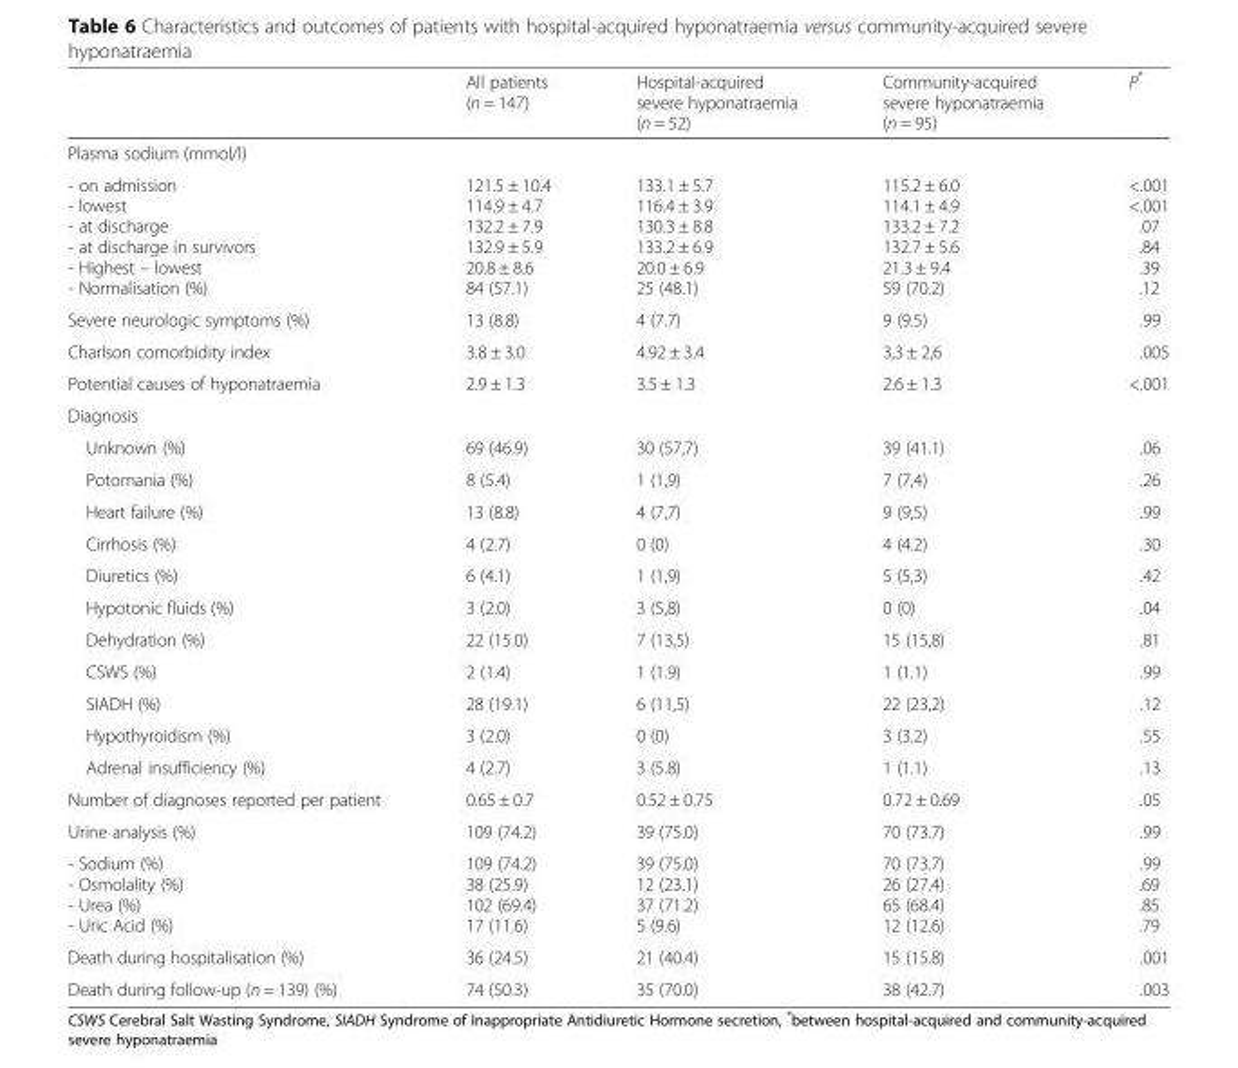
<table><thead><tr><td></td><td>All patients (n = 147)</td><td>Hospital-acquired severe hyponatraemia (n = 52)</td><td>Community-acquired severe hyponatraemia (n = 95)</td><td>P*</td></tr></thead><tbody><tr><td colspan="5">Plasma sodium (mmol/l)</td></tr><tr><td>- on admission - lowest - at discharge - at discharge in survivors - Highest – lowest - Normalisation (%)</td><td>121.5 ± 10.4 114.9 ± 4.7 132.2 ± 7.9 132.9 ± 5.9 20.8 ± 8.6 84 (57.1)</td><td>133.1 ± 5.7 116.4 ± 3.9 130.3 ± 8.8 133.2 ± 6.9 20.0 ± 6.9 25 (48.1)</td><td>115.2 ± 6.0 114.1 ± 4.9 133.2 ± 7.2 132.7 ± 5.6 21.3 ± 9.4 59 (70.2)</td><td>&lt;.001 &lt;.001 .07 .84 .39 .12</td></tr><tr><td>Severe neurologic symptoms (%)</td><td>13 (8.8)</td><td>4 (7.7)</td><td>9 (9.5)</td><td>.99</td></tr><tr><td>Charlson comorbidity index</td><td>3.8 ± 3.0</td><td>4.92 ± 3.4</td><td>3,3 ± 2,6</td><td>.005</td></tr><tr><td>Potential causes of hyponatraemia</td><td>2.9 ± 1.3</td><td>3.5 ± 1.3</td><td>2.6 ± 1.3</td><td>&lt;.001</td></tr><tr><td colspan="5">Diagnosis</td></tr><tr><td>Unknown (%)</td><td>69 (46.9)</td><td>30 (57,7)</td><td>39 (41.1)</td><td>.06</td></tr><tr><td>Potomania (%)</td><td>8 (5.4)</td><td>1 (1,9)</td><td>7 (7,4)</td><td>.26</td></tr><tr><td>Heart failure (%)</td><td>13 (8.8)</td><td>4 (7,7)</td><td>9 (9,5)</td><td>.99</td></tr><tr><td>Cirrhosis (%)</td><td>4 (2.7)</td><td>0 (0)</td><td>4 (4.2)</td><td>.30</td></tr><tr><td>Diuretics (%)</td><td>6 (4.1)</td><td>1 (1,9)</td><td>5 (5,3)</td><td>.42</td></tr><tr><td>Hypotonic fluids (%)</td><td>3 (2.0)</td><td>3 (5,8)</td><td>0 (0)</td><td>.04</td></tr><tr><td>Dehydration (%)</td><td>22 (15.0)</td><td>7 (13,5)</td><td>15 (15,8)</td><td>.81</td></tr><tr><td>CSWS (%)</td><td>2 (1.4)</td><td>1 (1.9)</td><td>1 (1.1)</td><td>.99</td></tr><tr><td>SIADH (%)</td><td>28 (19.1)</td><td>6 (11,5)</td><td>22 (23,2)</td><td>.12</td></tr><tr><td>Hypothyroidism (%)</td><td>3 (2.0)</td><td>0 (0)</td><td>3 (3.2)</td><td>.55</td></tr><tr><td>Adrenal insufficiency (%)</td><td>4 (2.7)</td><td>3 (5.8)</td><td>1 (1.1)</td><td>.13</td></tr><tr><td>Number of diagnoses reported per patient</td><td>0.65 ± 0.7</td><td>0.52 ± 0.75</td><td>0.72 ± 0.69</td><td>.05</td></tr><tr><td>Urine analysis (%)</td><td>109 (74.2)</td><td>39 (75.0)</td><td>70 (73.7)</td><td>.99</td></tr><tr><td>- Sodium (%) - Osmolality (%) - Urea (%) - Uric Acid (%)</td><td>109 (74.2) 38 (25.9) 102 (69.4) 17 (11.6)</td><td>39 (75.0) 12 (23.1) 37 (71.2) 5 (9.6)</td><td>70 (73.7) 26 (27.4) 65 (68.4) 12 (12.6)</td><td>.99 .69 .85 .79</td></tr><tr><td>Death during hospitalisation (%)</td><td>36 (24.5)</td><td>21 (40.4)</td><td>15 (15.8)</td><td>.001</td></tr><tr><td>Death during follow-up (n = 139) (%)</td><td>74 (50.3)</td><td>35 (70.0)</td><td>38 (42.7)</td><td>.003</td></tr></tbody></table>